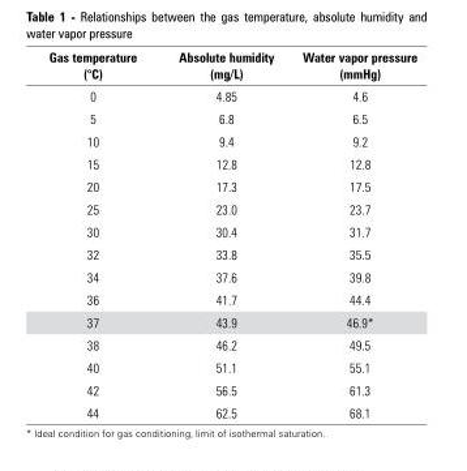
<table><thead><tr><td>Gas temperature (°C)</td><td>Absolute humidity (mg/L)</td><td>Water vapor pressure (mmHg)</td></tr></thead><tbody><tr><td>0</td><td>4.85</td><td>4.6</td></tr><tr><td>5</td><td>6.8</td><td>6.5</td></tr><tr><td>10</td><td>9.4</td><td>9.2</td></tr><tr><td>15</td><td>12.8</td><td>12.8</td></tr><tr><td>20</td><td>17.3</td><td>17.5</td></tr><tr><td>25</td><td>23.0</td><td>23.7</td></tr><tr><td>30</td><td>30.4</td><td>31.7</td></tr><tr><td>32</td><td>33.8</td><td>35.5</td></tr><tr><td>34</td><td>37.6</td><td>39.8</td></tr><tr><td>36</td><td>41.7</td><td>44.4</td></tr><tr><td>37</td><td>43.9</td><td>46.9*</td></tr><tr><td>38</td><td>46.2</td><td>49.5</td></tr><tr><td>40</td><td>51.1</td><td>55.1</td></tr><tr><td>42</td><td>56.5</td><td>61.3</td></tr><tr><td>44</td><td>62.5</td><td>68.1</td></tr></tbody></table>